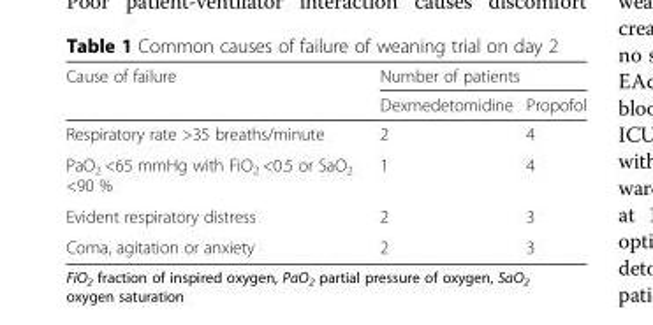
<table><thead><tr><td rowspan="2">Cause of failure</td><td colspan="2">Number of patients</td></tr><tr><td>Dexmedetomidine</td><td>Propofol</td></tr></thead><tbody><tr><td>Respiratory rate &gt;35 breaths/minute</td><td>2</td><td>4</td></tr><tr><td>PaO<sub>2</sub> &lt;65 mmHg with FiO<sub>2</sub> &lt;0.5 or SaO<sub>2</sub> &lt;90 %</td><td>1</td><td>4</td></tr><tr><td>Evident respiratory distress</td><td>2</td><td>3</td></tr><tr><td>Coma, agitation or anxiety</td><td>2</td><td>3</td></tr></tbody></table>